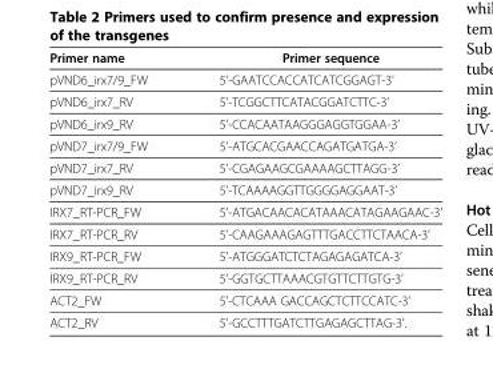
<table><thead><tr><td>Primer name</td><td>Primer sequence</td></tr></thead><tbody><tr><td>pVND6_irx7/9_FW</td><td>5’-GAATCCACCATCATCGGAGT-3’</td></tr><tr><td>pVND6_irx7_RV</td><td>5’-TCGGCTTCATACGGATCTTC-3’</td></tr><tr><td>pVND6_irx9_RV</td><td>5’-CCACAATAAGGGAGGTGGAA-3’</td></tr><tr><td>pVND7_irx7/9_FW</td><td>5’-ATGCACGAACCAGATGATGA-3’</td></tr><tr><td>pVND7_irx7_RV</td><td>5’-CGAGAAGCGAAAAGCTTAGG-3’</td></tr><tr><td>pVND7_irx9_RV</td><td>5’-TCAAAAGGTTGGGGAGGAAT-3’</td></tr><tr><td>IRX7_RT-PCR_FW</td><td>5’-ATGACAACACATAAACATAGAAGAAC-3’</td></tr><tr><td>IRX7_RT-PCR_RV</td><td>5’-CAAGAAAGAGTTTGACCTTCTAACA-3’</td></tr><tr><td>IRX9_RT-PCR_FW</td><td>5’-ATGGGATCTCTAGAGAGATCA-3’</td></tr><tr><td>IRX9_RT-PCR_RV</td><td>5’-GGTGCTTAAACGTGTTCTTGTG-3’</td></tr><tr><td>ACT2_FW</td><td>5’-CTCAAA GACCAGCTCTTCCATC-3’</td></tr><tr><td>ACT2_RV</td><td>5’-GCCTTTGATCTTGAGAGCTTAG-3’.</td></tr></tbody></table>